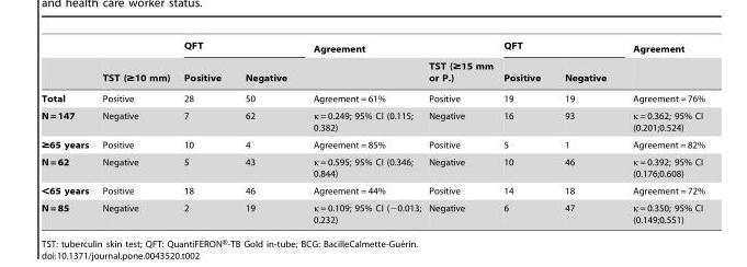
<table><thead><tr><td rowspan="2"></td><td rowspan="2">TST (≥10 mm)</td><td colspan="2">QFT</td><td rowspan="2">Agreement</td><td rowspan="2">TST (≥15 mm or P.)</td><td colspan="2">QFT</td><td rowspan="2">Agreement</td></tr><tr><td>Positive</td><td>Negative</td><td>Positive</td><td>Negative</td></tr></thead><tbody><tr><td>Total</td><td>Positive</td><td>28</td><td>50</td><td>Agreement = 61%</td><td>Positive</td><td>19</td><td>19</td><td>Agreement = 76%</td></tr><tr><td>N = 147</td><td>Negative</td><td>7</td><td>62</td><td>κ = 0.249; 95% CI (0.115; 0.382)</td><td>Negative</td><td>16</td><td>93</td><td>κ = 0.362; 95% CI (0.201;0.524)</td></tr><tr><td>≥65 years</td><td>Positive</td><td>10</td><td>4</td><td>Agreement = 85%</td><td>Positive</td><td>5</td><td>1</td><td>Agreement = 82%</td></tr><tr><td>N = 62</td><td>Negative</td><td>5</td><td>43</td><td>κ = 0.595; 95% CI (0.346; 0.844)</td><td>Negative</td><td>10</td><td>46</td><td>κ = 0.392; 95% CI (0.176;0.608)</td></tr><tr><td>&lt;65 years</td><td>Positive</td><td>18</td><td>46</td><td>Agreement = 44%</td><td>Positive</td><td>14</td><td>18</td><td>Agreement = 72%</td></tr><tr><td>N = 85</td><td>Negative</td><td>2</td><td>19</td><td>κ = 0.109; 95% CI (−0.013; 0.232)</td><td>Negative</td><td>6</td><td>47</td><td>κ = 0.350; 95% CI (0.149;0.551)</td></tr></tbody></table>